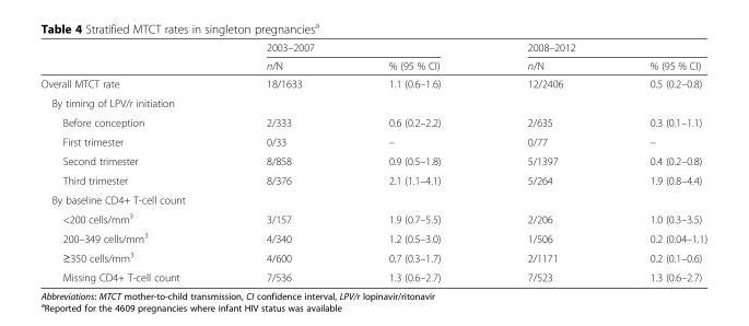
<table><thead><tr><td rowspan="2"></td><td colspan="2">2003–2007</td><td colspan="2">2008–2012</td></tr><tr><td>n/N</td><td>% (95 % CI)</td><td>n/N</td><td>% (95 % CI)</td></tr></thead><tbody><tr><td>Overall MTCT rate</td><td>18/1633</td><td>1.1 (0.6–1.6)</td><td>12/2406</td><td>0.5 (0.2–0.8)</td></tr><tr><td colspan="5">By timing of LPV/r initiation</td></tr><tr><td>Before conception</td><td>2/333</td><td>0.6 (0.2–2.2)</td><td>2/635</td><td>0.3 (0.1–1.1)</td></tr><tr><td>First trimester</td><td>0/33</td><td>–</td><td>0/77</td><td>–</td></tr><tr><td>Second trimester</td><td>8/858</td><td>0.9 (0.5–1.8)</td><td>5/1397</td><td>0.4 (0.2–0.8)</td></tr><tr><td>Third trimester</td><td>8/376</td><td>2.1 (1.1–4.1)</td><td>5/264</td><td>1.9 (0.8–4.4)</td></tr><tr><td colspan="5">By baseline CD4+ T-cell count</td></tr><tr><td>&lt;200 cells/mm3</td><td>3/157</td><td>1.9 (0.7–5.5)</td><td>2/206</td><td>1.0 (0.3–3.5)</td></tr><tr><td>200–349 cells/mm3</td><td>4/340</td><td>1.2 (0.5–3.0)</td><td>1/506</td><td>0.2 (0.04–1.1)</td></tr><tr><td>≥350 cells/mm3</td><td>4/600</td><td>0.7 (0.3–1.7)</td><td>2/1171</td><td>0.2 (0.1–0.6)</td></tr><tr><td>Missing CD4+ T-cell count</td><td>7/536</td><td>1.3 (0.6–2.7)</td><td>7/523</td><td>1.3 (0.6–2.7)</td></tr></tbody></table>